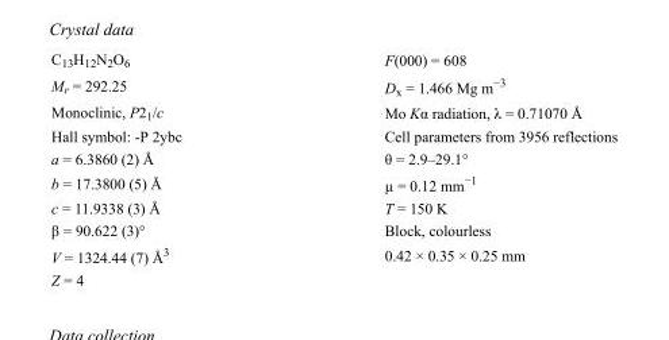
<table><tbody><tr><td>C<sub>13</sub>H<sub>12</sub>N<sub>2</sub>O<sub>6</sub></td><td>F(000) = 608</td></tr><tr><td>M<sub>r</sub> = 292.25</td><td>D<sub>x</sub> = 1.466 Mg m<sup>−3</sup></td></tr><tr><td>Monoclinic, P2<sub>1</sub>/c</td><td>Mo Kα radiation, λ = 0.71070 Å</td></tr><tr><td>Hall symbol: -P 2ybc</td><td>Cell parameters from 3956 reflections</td></tr><tr><td>a = 6.3860 (2) Å</td><td>θ = 2.9–29.1°</td></tr><tr><td>b = 17.3800 (5) Å</td><td>µ = 0.12 mm<sup>−1</sup></td></tr><tr><td>c = 11.9338 (3) Å</td><td>T = 150 K</td></tr><tr><td>β = 90.622 (3)°</td><td>Block, colourless</td></tr><tr><td>V = 1324.44 (7) Å<sup>3</sup></td><td>0.42 × 0.35 × 0.25 mm</td></tr><tr><td>Z = 4</td><td></td></tr></tbody></table>